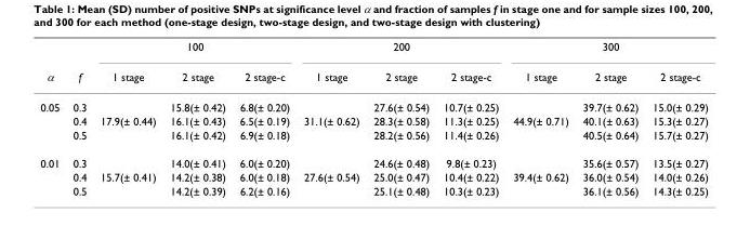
<table><thead><tr><td rowspan="2">α</td><td rowspan="2">f</td><td colspan="3">100</td><td colspan="3">200</td><td colspan="3">300</td></tr><tr><td>1 stage</td><td>2 stage</td><td>2 stage-c</td><td>1 stage</td><td>2 stage</td><td>2 stage-c</td><td>1 stage</td><td>2 stage</td><td>2 stage-c</td></tr></thead><tbody><tr><td rowspan="3">0.05</td><td>0.3</td><td></td><td>15.8(± 0.42)</td><td>6.8(± 0.20)</td><td></td><td>27.6(± 0.54)</td><td>10.7(± 0.25)</td><td></td><td>39.7(± 0.62)</td><td>15.0(± 0.29)</td></tr><tr><td>0.4</td><td>17.9(± 0.44)</td><td>16.1(± 0.43)</td><td>6.5(± 0.19)</td><td>31.1(± 0.62)</td><td>28.3(± 0.58)</td><td>11.3(± 0.25)</td><td>44.9(± 0.71)</td><td>40.1(± 0.63)</td><td>15.3(± 0.27)</td></tr><tr><td>0.5</td><td></td><td>16.1(± 0.42)</td><td>6.9(± 0.18)</td><td></td><td>28.2(± 0.56)</td><td>11.4(± 0.26)</td><td></td><td>40.5(± 0.64)</td><td>15.7(± 0.27)</td></tr><tr><td rowspan="3">0.01</td><td>0.3</td><td></td><td>14.0(± 0.41)</td><td>6.0(± 0.20)</td><td></td><td>24.6(± 0.48)</td><td>9.8(± 0.23)</td><td></td><td>35.6(± 0.57)</td><td>13.5(± 0.27)</td></tr><tr><td>0.4</td><td>15.7(± 0.41)</td><td>14.2(± 0.38)</td><td>6.0(± 0.18)</td><td>27.6(± 0.54)</td><td>25.0(± 0.47)</td><td>10.4(± 0.22)</td><td>39.4(± 0.62)</td><td>36.0(± 0.54)</td><td>14.0(± 0.26)</td></tr><tr><td>0.5</td><td></td><td>14.2(± 0.39)</td><td>6.2(± 0.16)</td><td></td><td>25.1(± 0.48)</td><td>10.3(± 0.23)</td><td></td><td>36.1(± 0.56)</td><td>14.3(± 0.25)</td></tr></tbody></table>